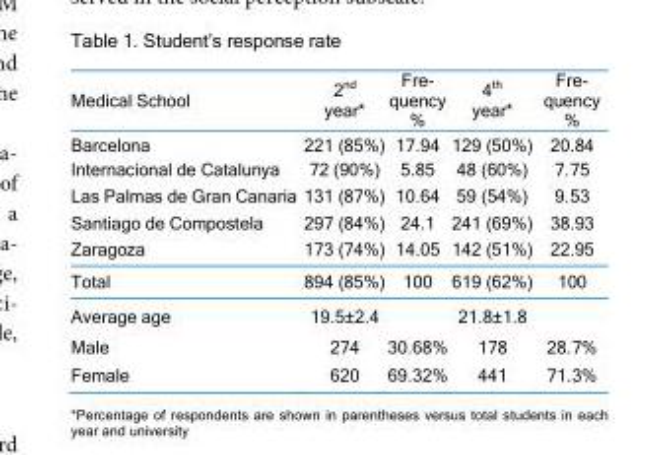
<table><thead><tr><td>Medical School</td><td>2<sup>nd</sup> year*</td><td>Fre- quency %</td><td>4<sup>th</sup> year*</td><td>Fre- quency %</td></tr></thead><tbody><tr><td>Barcelona</td><td>221 (85%)</td><td>17.94</td><td>129 (50%)</td><td>20.84</td></tr><tr><td>Internacional de Catalunya</td><td>72 (90%)</td><td>5.85</td><td>48 (60%)</td><td>7.75</td></tr><tr><td>Las Palmas de Gran Canaria</td><td>131 (87%)</td><td>10.64</td><td>59 (54%)</td><td>9.53</td></tr><tr><td>Santiago de Compostela</td><td>297 (84%)</td><td>24.1</td><td>241 (69%)</td><td>38.93</td></tr><tr><td>Zaragoza</td><td>173 (74%)</td><td>14.05</td><td>142 (51%)</td><td>22.95</td></tr><tr><td>Total</td><td>894 (85%)</td><td>100</td><td>619 (62%)</td><td>100</td></tr><tr><td>Average age</td><td>19.5±2.4</td><td></td><td>21.8±1.8</td><td></td></tr><tr><td>Male</td><td>274</td><td>30.68%</td><td>178</td><td>28.7%</td></tr><tr><td>Female</td><td>620</td><td>69.32%</td><td>441</td><td>71.3%</td></tr></tbody></table>